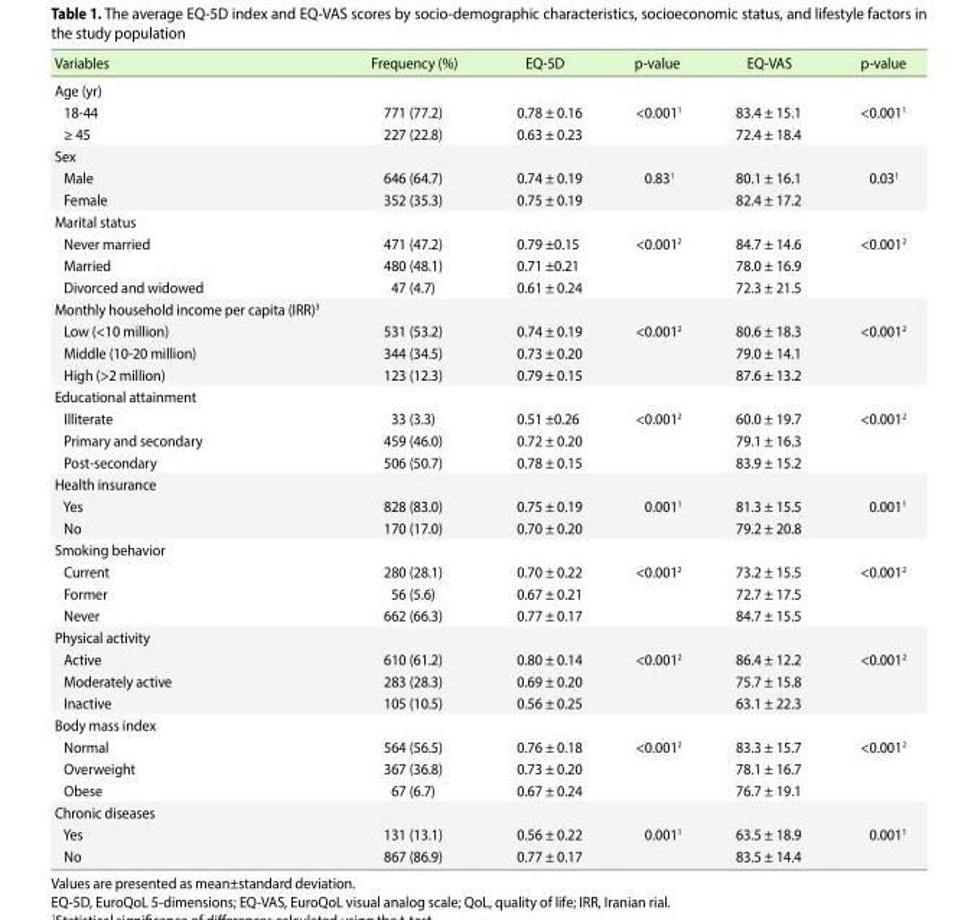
<table><thead><tr><td>Variables</td><td>Frequency (%)</td><td>EQ-5D</td><td>p-value</td><td>EQ-VAS</td><td>p-value</td></tr></thead><tbody><tr><td colspan="6">Age (yr)</td></tr><tr><td>18-44</td><td>771 (77.2)</td><td>0.78 ± 0.16</td><td>&lt;0.001<sup>1</sup></td><td>83.4 ± 15.1</td><td>&lt;0.001<sup>1</sup></td></tr><tr><td>≥ 45</td><td>227 (22.8)</td><td>0.63 ± 0.23</td><td></td><td>72.4 ± 18.4</td><td></td></tr><tr><td colspan="6">Sex</td></tr><tr><td>Male</td><td>646 (64.7)</td><td>0.74 ± 0.19</td><td>0.83<sup>1</sup></td><td>80.1 ± 16.1</td><td>0.03<sup>1</sup></td></tr><tr><td>Female</td><td>352 (35.3)</td><td>0.75 ± 0.19</td><td></td><td>82.4 ± 17.2</td><td></td></tr><tr><td colspan="6">Marital status</td></tr><tr><td>Never married</td><td>471 (47.2)</td><td>0.79 ±0.15</td><td>&lt;0.001<sup>2</sup></td><td>84.7 ± 14.6</td><td>&lt;0.001<sup>2</sup></td></tr><tr><td>Married</td><td>480 (48.1)</td><td>0.71 ±0.21</td><td></td><td>78.0 ± 16.9</td><td></td></tr><tr><td>Divorced and widowed</td><td>47 (4.7)</td><td>0.61 ± 0.24</td><td></td><td>72.3 ± 21.5</td><td></td></tr><tr><td colspan="6">Monthly household income per capita (IRR)<sup>3</sup></td></tr><tr><td>Low (&lt;10 million)</td><td>531 (53.2)</td><td>0.74 ± 0.19</td><td>&lt;0.001<sup>2</sup></td><td>80.6 ± 18.3</td><td>&lt;0.001<sup>2</sup></td></tr><tr><td>Middle (10-20 million)</td><td>344 (34.5)</td><td>0.73 ± 0.20</td><td></td><td>79.0 ± 14.1</td><td></td></tr><tr><td>High (&gt;2 million)</td><td>123 (12.3)</td><td>0.79 ± 0.15</td><td></td><td>87.6 ± 13.2</td><td></td></tr><tr><td colspan="6">Educational attainment</td></tr><tr><td>Illiterate</td><td>33 (3.3)</td><td>0.51 ±0.26</td><td>&lt;0.001<sup>2</sup></td><td>60.0 ± 19.7</td><td>&lt;0.001<sup>2</sup></td></tr><tr><td>Primary and secondary</td><td>459 (46.0)</td><td>0.72 ± 0.20</td><td></td><td>79.1 ± 16.3</td><td></td></tr><tr><td>Post-secondary</td><td>506 (50.7)</td><td>0.78 ± 0.15</td><td></td><td>83.9 ± 15.2</td><td></td></tr><tr><td colspan="6">Health insurance</td></tr><tr><td>Yes</td><td>828 (83.0)</td><td>0.75 ± 0.19</td><td>0.001<sup>1</sup></td><td>81.3 ± 15.5</td><td>0.001<sup>1</sup></td></tr><tr><td>No</td><td>170 (17.0)</td><td>0.70 ± 0.20</td><td></td><td>79.2 ± 20.8</td><td></td></tr><tr><td colspan="6">Smoking behavior</td></tr><tr><td>Current</td><td>280 (28.1)</td><td>0.70 ± 0.22</td><td>&lt;0.001<sup>2</sup></td><td>73.2 ± 15.5</td><td>&lt;0.001<sup>2</sup></td></tr><tr><td>Former</td><td>56 (5.6)</td><td>0.67 ± 0.21</td><td></td><td>72.7 ± 17.5</td><td></td></tr><tr><td>Never</td><td>662 (66.3)</td><td>0.77 ± 0.17</td><td></td><td>84.7 ± 15.5</td><td></td></tr><tr><td colspan="6">Physical activity</td></tr><tr><td>Active</td><td>610 (61.2)</td><td>0.80 ± 0.14</td><td>&lt;0.001<sup>2</sup></td><td>86.4 ± 12.2</td><td>&lt;0.001<sup>2</sup></td></tr><tr><td>Moderately active</td><td>283 (28.3)</td><td>0.69 ± 0.20</td><td></td><td>75.7 ± 15.8</td><td></td></tr><tr><td>Inactive</td><td>105 (10.5)</td><td>0.56 ± 0.25</td><td></td><td>63.1 ± 22.3</td><td></td></tr><tr><td colspan="6">Body mass index</td></tr><tr><td>Normal</td><td>564 (56.5)</td><td>0.76 ± 0.18</td><td>&lt;0.001<sup>2</sup></td><td>83.3 ± 15.7</td><td>&lt;0.001<sup>2</sup></td></tr><tr><td>Overweight</td><td>367 (36.8)</td><td>0.73 ± 0.20</td><td></td><td>78.1 ± 16.7</td><td></td></tr><tr><td>Obese</td><td>67 (6.7)</td><td>0.67 ± 0.24</td><td></td><td>76.7 ± 19.1</td><td></td></tr><tr><td colspan="6">Chronic diseases</td></tr><tr><td>Yes</td><td>131 (13.1)</td><td>0.56 ± 0.22</td><td>0.001<sup>1</sup></td><td>63.5 ± 18.9</td><td>0.001<sup>1</sup></td></tr><tr><td>No</td><td>867 (86.9)</td><td>0.77 ± 0.17</td><td></td><td>83.5 ± 14.4</td><td></td></tr></tbody></table>